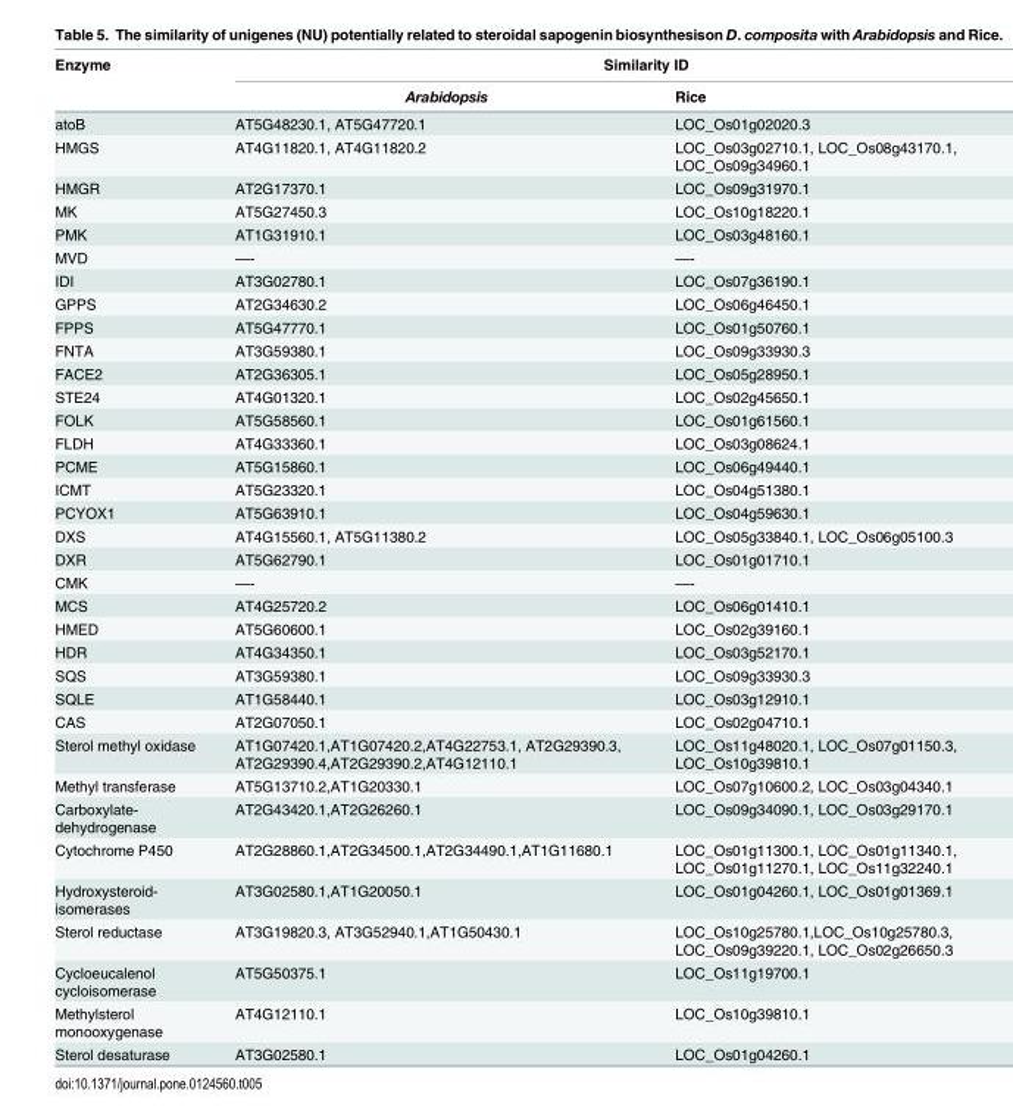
<table><thead><tr><td rowspan="2">Enzyme</td><td colspan="2">Similarity ID</td></tr><tr><td>Arabidopsis</td><td>Rice</td></tr></thead><tbody><tr><td>atoB</td><td>AT5G48230.1, AT5G47720.1</td><td>LOC_Os01g02020.3</td></tr><tr><td>HMGS</td><td>AT4G11820.1, AT4G11820.2</td><td>LOC_Os03g02710.1, LOC_Os08g43170.1, LOC_Os09g34960.1</td></tr><tr><td>HMGR</td><td>AT2G17370.1</td><td>LOC_Os09g31970.1</td></tr><tr><td>MK</td><td>AT5G27450.3</td><td>LOC_Os10g18220.1</td></tr><tr><td>PMK</td><td>AT1G31910.1</td><td>LOC_Os03g48160.1</td></tr><tr><td>MVD</td><td>—-</td><td>—-</td></tr><tr><td>IDI</td><td>AT3G02780.1</td><td>LOC_Os07g36190.1</td></tr><tr><td>GPPS</td><td>AT2G34630.2</td><td>LOC_Os06g46450.1</td></tr><tr><td>FPPS</td><td>AT5G47770.1</td><td>LOC_Os01g50760.1</td></tr><tr><td>FNTA</td><td>AT3G59380.1</td><td>LOC_Os09g33930.3</td></tr><tr><td>FACE2</td><td>AT2G36305.1</td><td>LOC_Os05g28950.1</td></tr><tr><td>STE24</td><td>AT4G01320.1</td><td>LOC_Os02g45650.1</td></tr><tr><td>FOLK</td><td>AT5G58560.1</td><td>LOC_Os01g61560.1</td></tr><tr><td>FLDH</td><td>AT4G33360.1</td><td>LOC_Os03g08624.1</td></tr><tr><td>PCME</td><td>AT5G15860.1</td><td>LOC_Os06g49440.1</td></tr><tr><td>ICMT</td><td>AT5G23320.1</td><td>LOC_Os04g51380.1</td></tr><tr><td>PCYOX1</td><td>AT5G63910.1</td><td>LOC_Os04g59630.1</td></tr><tr><td>DXS</td><td>AT4G15560.1, AT5G11380.2</td><td>LOC_Os05g33840.1, LOC_Os06g05100.3</td></tr><tr><td>DXR</td><td>AT5G62790.1</td><td>LOC_Os01g01710.1</td></tr><tr><td>CMK</td><td>—-</td><td>—-</td></tr><tr><td>MCS</td><td>AT4G25720.2</td><td>LOC_Os06g01410.1</td></tr><tr><td>HMED</td><td>AT5G60600.1</td><td>LOC_Os02g39160.1</td></tr><tr><td>HDR</td><td>AT4G34350.1</td><td>LOC_Os03g52170.1</td></tr><tr><td>SQS</td><td>AT3G59380.1</td><td>LOC_Os09g33930.3</td></tr><tr><td>SQLE</td><td>AT1G58440.1</td><td>LOC_Os03g12910.1</td></tr><tr><td>CAS</td><td>AT2G07050.1</td><td>LOC_Os02g04710.1</td></tr><tr><td>Sterol methyl oxidase</td><td>AT1G07420.1,AT1G07420.2,AT4G22753.1, AT2G29390.3, AT2G29390.4,AT2G29390.2,AT4G12110.1</td><td>LOC_Os11g48020.1, LOC_Os07g01150.3, LOC_Os10g39810.1</td></tr><tr><td>Methyl transferase</td><td>AT5G13710.2,AT1G20330.1</td><td>LOC_Os07g10600.2, LOC_Os03g04340.1</td></tr><tr><td>Carboxylate- dehydrogenase</td><td>AT2G43420.1,AT2G26260.1</td><td>LOC_Os09g34090.1, LOC_Os03g29170.1</td></tr><tr><td>Cytochrome P450</td><td>AT2G28860.1,AT2G34500.1,AT2G34490.1,AT1G11680.1</td><td>LOC_Os01g11300.1, LOC_Os01g11340.1, LOC_Os01g11270.1, LOC_Os11g32240.1</td></tr><tr><td>Hydroxysteroid- isomerases</td><td>AT3G02580.1,AT1G20050.1</td><td>LOC_Os01g04260.1, LOC_Os01g01369.1</td></tr><tr><td>Sterol reductase</td><td>AT3G19820.3, AT3G52940.1,AT1G50430.1</td><td>LOC_Os10g25780.1,LOC_Os10g25780.3, LOC_Os09g39220.1, LOC_Os02g26650.3</td></tr><tr><td>Cycloeucalenol cycloisomerase</td><td>AT5G50375.1</td><td>LOC_Os11g19700.1</td></tr><tr><td>Methylsterol monooxygenase</td><td>AT4G12110.1</td><td>LOC_Os10g39810.1</td></tr><tr><td>Sterol desaturase</td><td>AT3G02580.1</td><td>LOC_Os01g04260.1</td></tr></tbody></table>